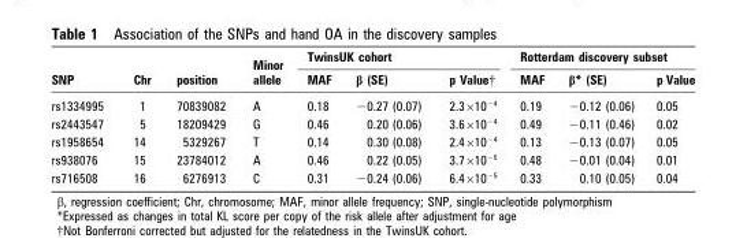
<table><thead><tr><td rowspan="2">SNP</td><td rowspan="2">Chr</td><td rowspan="2">position</td><td rowspan="2">Minor allele</td><td colspan="3">TwinsUK cohort</td><td colspan="3">Rotterdam discovery subset</td></tr><tr><td>MAF</td><td>β (SE)</td><td>p Value†</td><td>MAF</td><td>β* (SE)</td><td>p Value</td></tr></thead><tbody><tr><td>rs1334995</td><td>1</td><td>70839082</td><td>A</td><td>0.18</td><td>−0.27 (0.07)</td><td>2.3×10<sup>−4</sup></td><td>0.19</td><td>−0.12 (0.06)</td><td>0.05</td></tr><tr><td>rs2443547</td><td>5</td><td>18209429</td><td>G</td><td>0.46</td><td>0.20 (0.06)</td><td>3.6×10<sup>−4</sup></td><td>0.49</td><td>−0.11 (0.46)</td><td>0.02</td></tr><tr><td>rs1958654</td><td>14</td><td>5329267</td><td>T</td><td>0.14</td><td>0.30 (0.08)</td><td>2.4×10<sup>−4</sup></td><td>0.13</td><td>−0.13 (0.07)</td><td>0.05</td></tr><tr><td>rs938076</td><td>15</td><td>23784012</td><td>A</td><td>0.46</td><td>0.22 (0.05)</td><td>3.7×10<sup>−5</sup></td><td>0.48</td><td>−0.01 (0.04)</td><td>0.01</td></tr><tr><td>rs716508</td><td>16</td><td>6276913</td><td>C</td><td>0.31</td><td>−0.24 (0.06)</td><td>6.4×10<sup>−5</sup></td><td>0.33</td><td>0.10 (0.05)</td><td>0.04</td></tr></tbody></table>